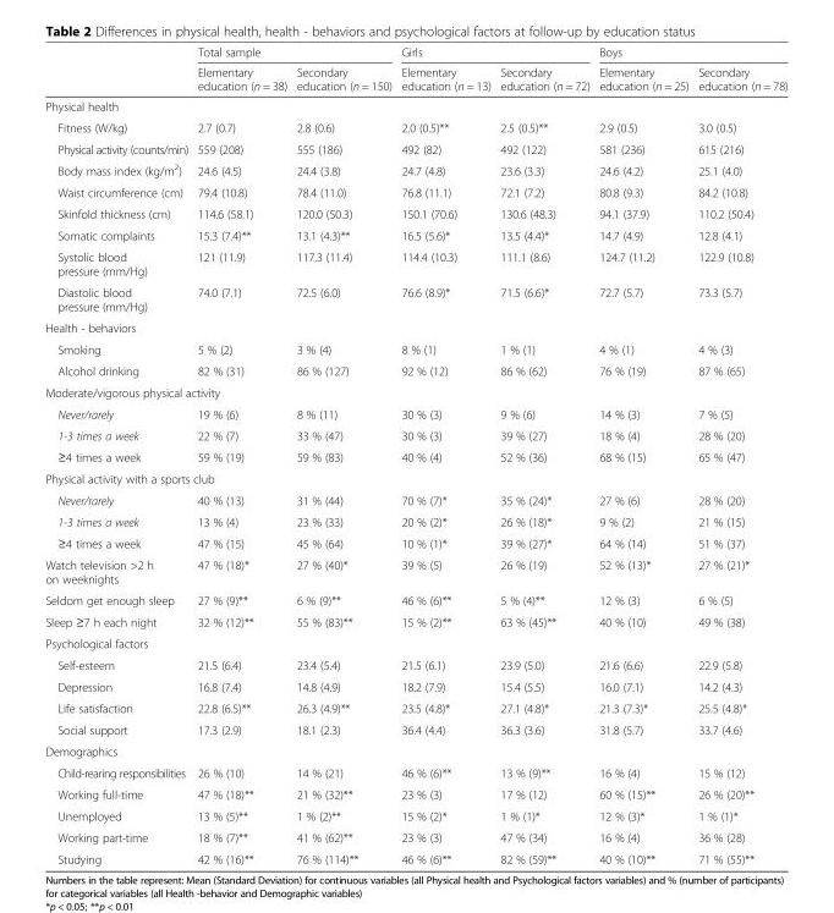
<table><thead><tr><td rowspan="2"></td><td colspan="2">Total sample</td><td colspan="2">Girls</td><td colspan="2">Boys</td></tr><tr><td>Elementary education (n = 38)</td><td>Secondary education (n = 150)</td><td>Elementary education (n = 13)</td><td>Secondary education (n = 72)</td><td>Elementary education (n = 25)</td><td>Secondary education (n = 78)</td></tr></thead><tbody><tr><td colspan="7">Physical health</td></tr><tr><td>Fitness (W/kg)</td><td>2.7 (0.7)</td><td>2.8 (0.6)</td><td>2.0 (0.5)**</td><td>2.5 (0.5)**</td><td>2.9 (0.5)</td><td>3.0 (0.5)</td></tr><tr><td>Physical activity (counts/min)</td><td>559 (208)</td><td>555 (186)</td><td>492 (82)</td><td>492 (122)</td><td>581 (236)</td><td>615 (216)</td></tr><tr><td>Body mass index (kg/m<sup>2</sup>)</td><td>24.6 (4.5)</td><td>24.4 (3.8)</td><td>24.7 (4.8)</td><td>23.6 (3.3)</td><td>24.6 (4.2)</td><td>25.1 (4.0)</td></tr><tr><td>Waist circumference (cm)</td><td>79.4 (10.8)</td><td>78.4 (11.0)</td><td>76.8 (11.1)</td><td>72.1 (7.2)</td><td>80.8 (9.3)</td><td>84.2 (10.8)</td></tr><tr><td>Skinfold thickness (cm)</td><td>114.6 (58.1)</td><td>120.0 (50.3)</td><td>150.1 (70.6)</td><td>130.6 (48.3)</td><td>94.1 (37.9)</td><td>110.2 (50.4)</td></tr><tr><td>Somatic complaints</td><td>15.3 (7.4)**</td><td>13.1 (4.3)**</td><td>16.5 (5.6)*</td><td>13.5 (4.4)*</td><td>14.7 (4.9)</td><td>12.8 (4.1)</td></tr><tr><td>Systolic blood pressure (mm/Hg)</td><td>121 (11.9)</td><td>117.3 (11.4)</td><td>114.4 (10.3)</td><td>111.1 (8.6)</td><td>124.7 (11.2)</td><td>122.9 (10.8)</td></tr><tr><td>Diastolic blood pressure (mm/Hg)</td><td>74.0 (7.1)</td><td>72.5 (6.0)</td><td>76.6 (8.9)*</td><td>71.5 (6.6)*</td><td>72.7 (5.7)</td><td>73.3 (5.7)</td></tr><tr><td colspan="7">Health - behaviors</td></tr><tr><td>Smoking</td><td>5 % (2)</td><td>3 % (4)</td><td>8 % (1)</td><td>1 % (1)</td><td>4 % (1)</td><td>4 % (3)</td></tr><tr><td>Alcohol drinking</td><td>82 % (31)</td><td>86 % (127)</td><td>92 % (12)</td><td>86 % (62)</td><td>76 % (19)</td><td>87 % (65)</td></tr><tr><td colspan="7">Moderate/vigorous physical activity</td></tr><tr><td>Never/rarely</td><td>19 % (6)</td><td>8 % (11)</td><td>30 % (3)</td><td>9 % (6)</td><td>14 % (3)</td><td>7 % (5)</td></tr><tr><td>1-3 times a week</td><td>22 % (7)</td><td>33 % (47)</td><td>30 % (3)</td><td>39 % (27)</td><td>18 % (4)</td><td>28 % (20)</td></tr><tr><td>≥4 times a week</td><td>59 % (19)</td><td>59 % (83)</td><td>40 % (4)</td><td>52 % (36)</td><td>68 % (15)</td><td>65 % (47)</td></tr><tr><td colspan="7">Physical activity with a sports club</td></tr><tr><td>Never/rarely</td><td>40 % (13)</td><td>31 % (44)</td><td>70 % (7)*</td><td>35 % (24)*</td><td>27 % (6)</td><td>28 % (20)</td></tr><tr><td>1-3 times a week</td><td>13 % (4)</td><td>23 % (33)</td><td>20 % (2)*</td><td>26 % (18)*</td><td>9 % (2)</td><td>21 % (15)</td></tr><tr><td>≥4 times a week</td><td>47 % (15)</td><td>45 % (64)</td><td>10 % (1)*</td><td>39 % (27)*</td><td>64 % (14)</td><td>51 % (37)</td></tr><tr><td>Watch television &gt;2 h on weeknights</td><td>47 % (18)*</td><td>27 % (40)*</td><td>39 % (5)</td><td>26 % (19)</td><td>52 % (13)*</td><td>27 % (21)*</td></tr><tr><td>Seldom get enough sleep</td><td>27 % (9)**</td><td>6 % (9)**</td><td>46 % (6)**</td><td>5 % (4)**</td><td>12 % (3)</td><td>6 % (5)</td></tr><tr><td>Sleep ≥7 h each night</td><td>32 % (12)**</td><td>55 % (83)**</td><td>15 % (2)**</td><td>63 % (45)**</td><td>40 % (10)</td><td>49 % (38)</td></tr><tr><td colspan="7">Psychological factors</td></tr><tr><td>Self-esteem</td><td>21.5 (6.4)</td><td>23.4 (5.4)</td><td>21.5 (6.1)</td><td>23.9 (5.0)</td><td>21.6 (6.6)</td><td>22.9 (5.8)</td></tr><tr><td>Depression</td><td>16.8 (7.4)</td><td>14.8 (4.9)</td><td>18.2 (7.9)</td><td>15.4 (5.5)</td><td>16.0 (7.1)</td><td>14.2 (4.3)</td></tr><tr><td>Life satisfaction</td><td>22.8 (6.5)**</td><td>26.3 (4.9)**</td><td>23.5 (4.8)*</td><td>27.1 (4.8)*</td><td>21.3 (7.3)*</td><td>25.5 (4.8)*</td></tr><tr><td>Social support</td><td>17.3 (2.9)</td><td>18.1 (2.3)</td><td>36.4 (4.4)</td><td>36.3 (3.6)</td><td>31.8 (5.7)</td><td>33.7 (4.6)</td></tr><tr><td colspan="7">Demographics</td></tr><tr><td>Child-rearing responsibilities</td><td>26 % (10)</td><td>14 % (21)</td><td>46 % (6)**</td><td>13 % (9)**</td><td>16 % (4)</td><td>15 % (12)</td></tr><tr><td>Working full-time</td><td>47 % (18)**</td><td>21 % (32)**</td><td>23 % (3)</td><td>17 % (12)</td><td>60 % (15)**</td><td>26 % (20)**</td></tr><tr><td>Unemployed</td><td>13 % (5)**</td><td>1 % (2)**</td><td>15 % (2)*</td><td>1 % (1)*</td><td>12 % (3)*</td><td>1 % (1)*</td></tr><tr><td>Working part-time</td><td>18 % (7)**</td><td>41 % (62)**</td><td>23 % (3)</td><td>47 % (34)</td><td>16 % (4)</td><td>36 % (28)</td></tr><tr><td>Studying</td><td>42 % (16)**</td><td>76 % (114)**</td><td>46 % (6)**</td><td>82 % (59)**</td><td>40 % (10)**</td><td>71 % (55)**</td></tr></tbody></table>